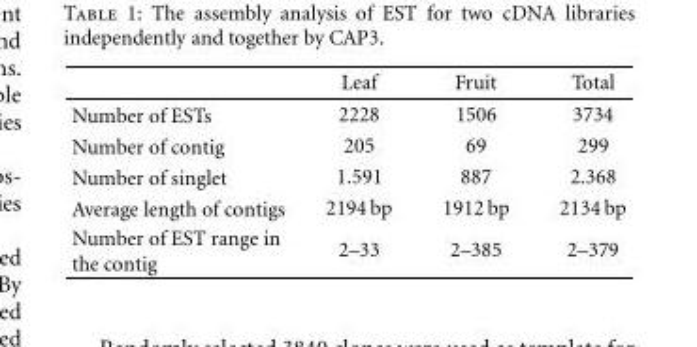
<table><thead><tr><td></td><td>Leaf</td><td>Fruit</td><td>Total</td></tr></thead><tbody><tr><td>Number of ESTs</td><td>2228</td><td>1506</td><td>3734</td></tr><tr><td>Number of contig</td><td>205</td><td>69</td><td>299</td></tr><tr><td>Number of singlet</td><td>1.591</td><td>887</td><td>2.368</td></tr><tr><td>Average length of contigs</td><td>2194 bp</td><td>1912 bp</td><td>2134 bp</td></tr><tr><td>Number of EST range in the contig</td><td>2–33</td><td>2–385</td><td>2–379</td></tr></tbody></table>